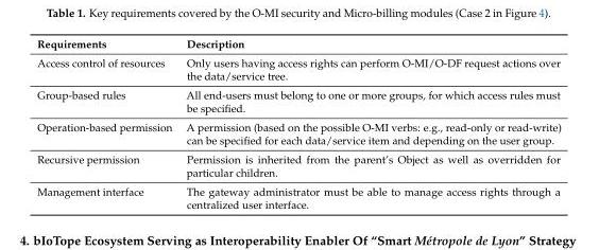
<table><thead><tr><td>Requirements</td><td>Description</td></tr></thead><tbody><tr><td>Access control of resources</td><td>Only users having access rights can perform O-MI/O-DF request actions over the data/service tree.</td></tr><tr><td>Group-based rules</td><td>All end-users must belong to one or more groups, for which access rules must be specified.</td></tr><tr><td>Operation-based permission</td><td>A permission (based on the possible O-MI verbs: e.g., read-only or read-write) can be specified for each data/service item and depending on the user group.</td></tr><tr><td>Recursive permission</td><td>Permission is inherited from the parent’s Object as well as overridden for particular children.</td></tr><tr><td>Management interface</td><td>The gateway administrator must be able to manage access rights through a centralized user interface.</td></tr></tbody></table>